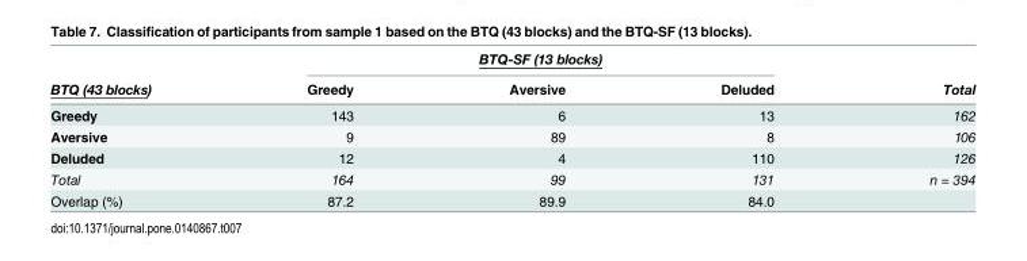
<table><thead><tr><td rowspan="2">BTQ (43 blocks)</td><td colspan="3">BTQ-SF (13 blocks)</td><td rowspan="2">Total</td></tr><tr><td>Greedy</td><td>Aversive</td><td>Deluded</td></tr></thead><tbody><tr><td>Greedy</td><td>143</td><td>6</td><td>13</td><td>162</td></tr><tr><td>Aversive</td><td>9</td><td>89</td><td>8</td><td>106</td></tr><tr><td>Deluded</td><td>12</td><td>4</td><td>110</td><td>126</td></tr><tr><td>Total</td><td>164</td><td>99</td><td>131</td><td>n = 394</td></tr><tr><td>Overlap (%)</td><td>87.2</td><td>89.9</td><td>84.0</td><td></td></tr></tbody></table>